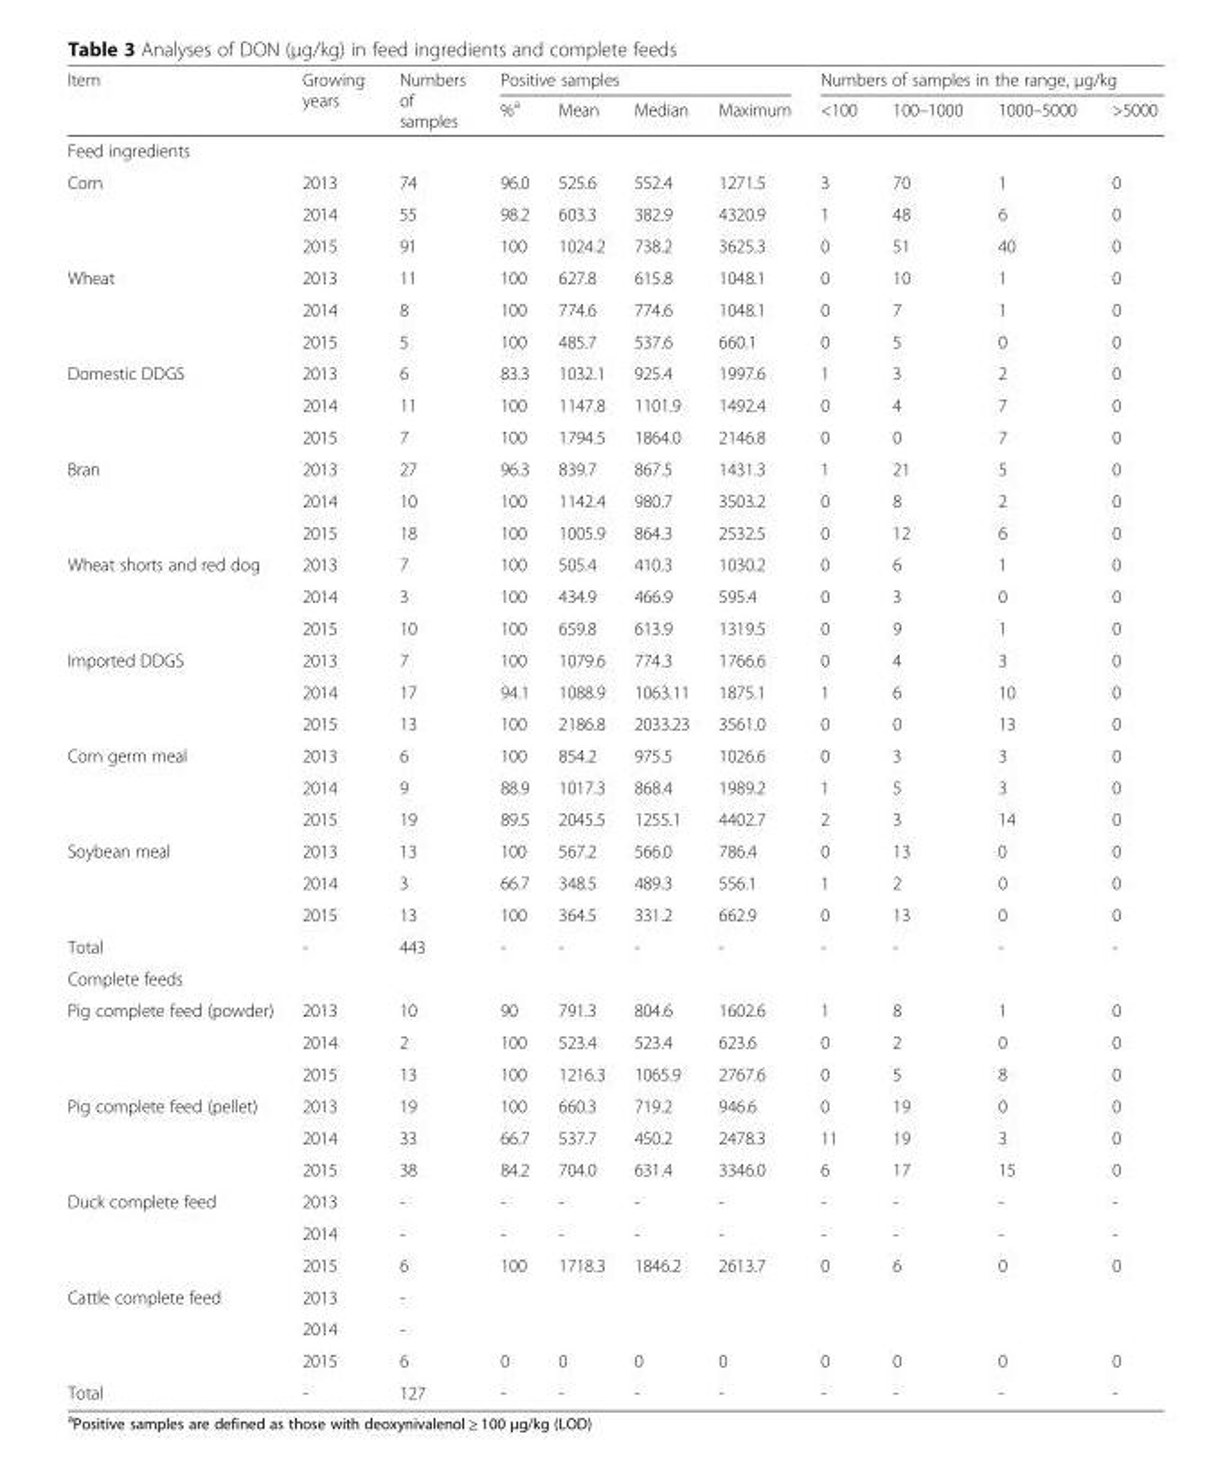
<table><thead><tr><td rowspan="2">Item</td><td rowspan="2">Growing years</td><td rowspan="2">Numbers of samples</td><td colspan="4">Positive samples</td><td colspan="4">Numbers of samples in the range, μg/kg</td></tr><tr><td>%<sup>a</sup></td><td>Mean</td><td>Median</td><td>Maximum</td><td>&lt;100</td><td>100–1000</td><td>1000–5000</td><td>&gt;5000</td></tr></thead><tbody><tr><td colspan="11">Feed ingredients</td></tr><tr><td rowspan="3">Corn</td><td>2013</td><td>74</td><td>96.0</td><td>525.6</td><td>552.4</td><td>1271.5</td><td>3</td><td>70</td><td>1</td><td>0</td></tr><tr><td>2014</td><td>55</td><td>98.2</td><td>603.3</td><td>382.9</td><td>4320.9</td><td>1</td><td>48</td><td>6</td><td>0</td></tr><tr><td>2015</td><td>91</td><td>100</td><td>1024.2</td><td>738.2</td><td>3625.3</td><td>0</td><td>51</td><td>40</td><td>0</td></tr><tr><td rowspan="3">Wheat</td><td>2013</td><td>11</td><td>100</td><td>627.8</td><td>615.8</td><td>1048.1</td><td>0</td><td>10</td><td>1</td><td>0</td></tr><tr><td>2014</td><td>8</td><td>100</td><td>774.6</td><td>774.6</td><td>1048.1</td><td>0</td><td>7</td><td>1</td><td>0</td></tr><tr><td>2015</td><td>5</td><td>100</td><td>485.7</td><td>537.6</td><td>660.1</td><td>0</td><td>5</td><td>0</td><td>0</td></tr><tr><td rowspan="3">Domestic DDGS</td><td>2013</td><td>6</td><td>83.3</td><td>1032.1</td><td>925.4</td><td>1997.6</td><td>1</td><td>3</td><td>2</td><td>0</td></tr><tr><td>2014</td><td>11</td><td>100</td><td>1147.8</td><td>1101.9</td><td>1492.4</td><td>0</td><td>4</td><td>7</td><td>0</td></tr><tr><td>2015</td><td>7</td><td>100</td><td>1794.5</td><td>1864.0</td><td>2146.8</td><td>0</td><td>0</td><td>7</td><td>0</td></tr><tr><td rowspan="3">Bran</td><td>2013</td><td>27</td><td>96.3</td><td>839.7</td><td>867.5</td><td>1431.3</td><td>1</td><td>21</td><td>5</td><td>0</td></tr><tr><td>2014</td><td>10</td><td>100</td><td>1142.4</td><td>980.7</td><td>3503.2</td><td>0</td><td>8</td><td>2</td><td>0</td></tr><tr><td>2015</td><td>18</td><td>100</td><td>1005.9</td><td>864.3</td><td>2532.5</td><td>0</td><td>12</td><td>6</td><td>0</td></tr><tr><td rowspan="3">Wheat shorts and red dog</td><td>2013</td><td>7</td><td>100</td><td>505.4</td><td>410.3</td><td>1030.2</td><td>0</td><td>6</td><td>1</td><td>0</td></tr><tr><td>2014</td><td>3</td><td>100</td><td>434.9</td><td>466.9</td><td>595.4</td><td>0</td><td>3</td><td>0</td><td>0</td></tr><tr><td>2015</td><td>10</td><td>100</td><td>659.8</td><td>613.9</td><td>1319.5</td><td>0</td><td>9</td><td>1</td><td>0</td></tr><tr><td rowspan="3">Imported DDGS</td><td>2013</td><td>7</td><td>100</td><td>1079.6</td><td>774.3</td><td>1766.6</td><td>0</td><td>4</td><td>3</td><td>0</td></tr><tr><td>2014</td><td>17</td><td>94.1</td><td>1088.9</td><td>1063.11</td><td>1875.1</td><td>1</td><td>6</td><td>10</td><td>0</td></tr><tr><td>2015</td><td>13</td><td>100</td><td>2186.8</td><td>2033.23</td><td>3561.0</td><td>0</td><td>0</td><td>13</td><td>0</td></tr><tr><td rowspan="3">Corn germ meal</td><td>2013</td><td>6</td><td>100</td><td>854.2</td><td>975.5</td><td>1026.6</td><td>0</td><td>3</td><td>3</td><td>0</td></tr><tr><td>2014</td><td>9</td><td>88.9</td><td>1017.3</td><td>868.4</td><td>1989.2</td><td>1</td><td>5</td><td>3</td><td>0</td></tr><tr><td>2015</td><td>19</td><td>89.5</td><td>2045.5</td><td>1255.1</td><td>4402.7</td><td>2</td><td>3</td><td>14</td><td>0</td></tr><tr><td rowspan="3">Soybean meal</td><td>2013</td><td>13</td><td>100</td><td>567.2</td><td>566.0</td><td>786.4</td><td>0</td><td>13</td><td>0</td><td>0</td></tr><tr><td>2014</td><td>3</td><td>66.7</td><td>348.5</td><td>489.3</td><td>556.1</td><td>1</td><td>2</td><td>0</td><td>0</td></tr><tr><td>2015</td><td>13</td><td>100</td><td>364.5</td><td>331.2</td><td>662.9</td><td>0</td><td>13</td><td>0</td><td>0</td></tr><tr><td>Total</td><td>-</td><td>443</td><td>-</td><td>-</td><td>-</td><td>-</td><td>-</td><td>-</td><td>-</td><td>-</td></tr><tr><td colspan="11">Complete feeds</td></tr><tr><td rowspan="3">Pig complete feed (powder)</td><td>2013</td><td>10</td><td>90</td><td>791.3</td><td>804.6</td><td>1602.6</td><td>1</td><td>8</td><td>1</td><td>0</td></tr><tr><td>2014</td><td>2</td><td>100</td><td>523.4</td><td>523.4</td><td>623.6</td><td>0</td><td>2</td><td>0</td><td>0</td></tr><tr><td>2015</td><td>13</td><td>100</td><td>1216.3</td><td>1065.9</td><td>2767.6</td><td>0</td><td>5</td><td>8</td><td>0</td></tr><tr><td rowspan="3">Pig complete feed (pellet)</td><td>2013</td><td>19</td><td>100</td><td>660.3</td><td>719.2</td><td>946.6</td><td>0</td><td>19</td><td>0</td><td>0</td></tr><tr><td>2014</td><td>33</td><td>66.7</td><td>537.7</td><td>450.2</td><td>2478.3</td><td>11</td><td>19</td><td>3</td><td>0</td></tr><tr><td>2015</td><td>38</td><td>84.2</td><td>704.0</td><td>631.4</td><td>3346.0</td><td>6</td><td>17</td><td>15</td><td>0</td></tr><tr><td rowspan="3">Duck complete feed</td><td>2013</td><td>-</td><td>-</td><td>-</td><td>-</td><td>-</td><td>-</td><td>-</td><td>-</td><td>-</td></tr><tr><td>2014</td><td>-</td><td>-</td><td>-</td><td>-</td><td>-</td><td>-</td><td>-</td><td>-</td><td>-</td></tr><tr><td>2015</td><td>6</td><td>100</td><td>1718.3</td><td>1846.2</td><td>2613.7</td><td>0</td><td>6</td><td>0</td><td>0</td></tr><tr><td rowspan="3">Cattle complete feed</td><td>2013</td><td>-</td><td></td><td></td><td></td><td></td><td></td><td></td><td></td><td></td></tr><tr><td>2014</td><td>-</td><td></td><td></td><td></td><td></td><td></td><td></td><td></td><td></td></tr><tr><td>2015</td><td>6</td><td>0</td><td>0</td><td>0</td><td>0</td><td>0</td><td>0</td><td>0</td><td>0</td></tr><tr><td>Total</td><td>-</td><td>127</td><td>-</td><td>-</td><td>-</td><td>-</td><td>-</td><td>-</td><td>-</td><td>-</td></tr></tbody></table>